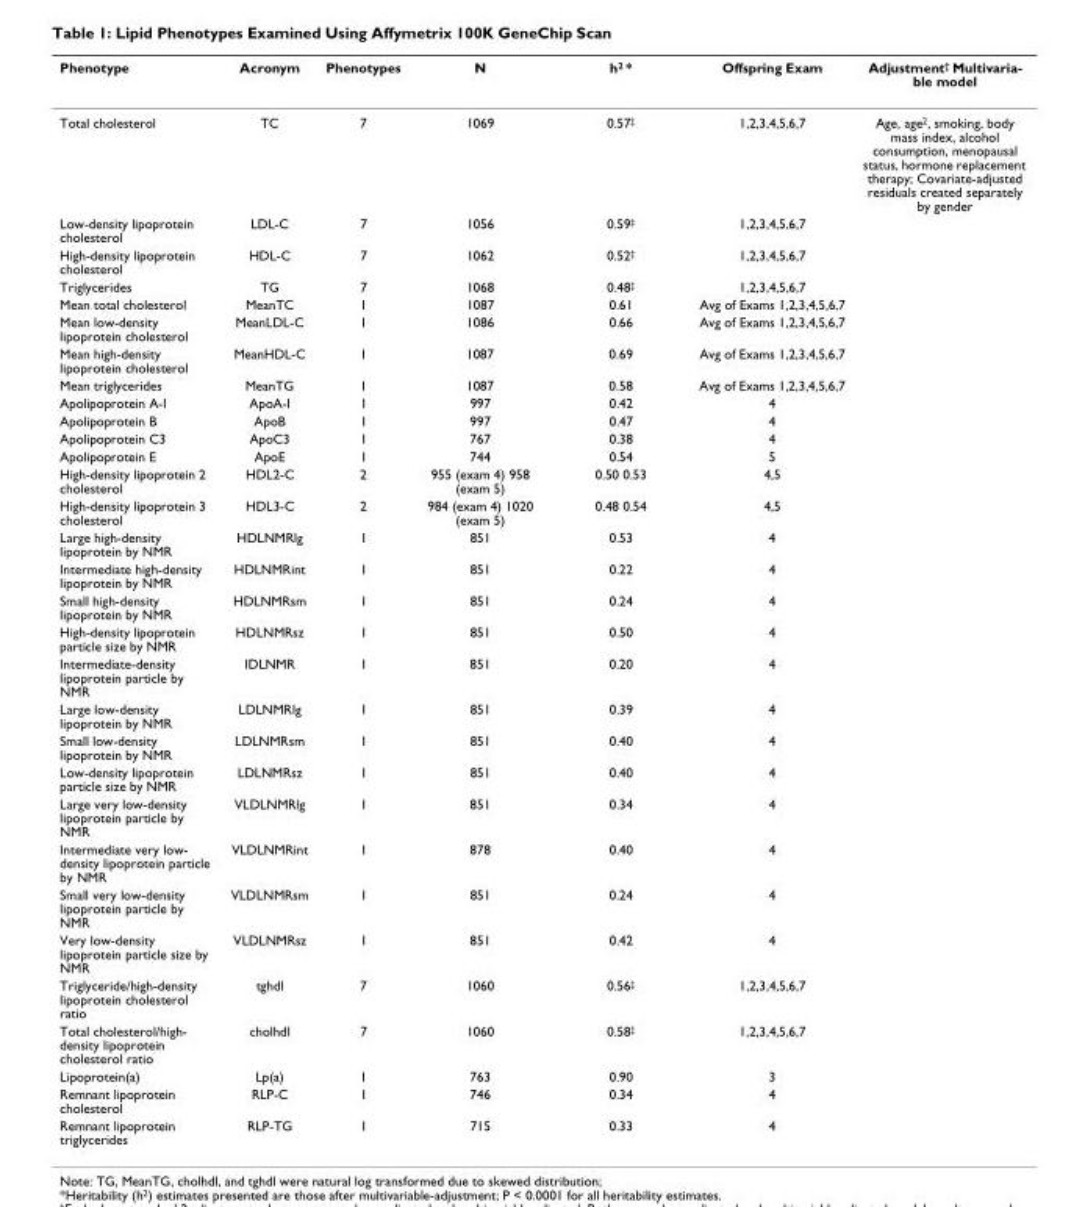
<table><thead><tr><td>Phenotype</td><td>Acronym</td><td>Phenotypes</td><td>N</td><td>h<sup>2</sup> *</td><td>Offspring Exam</td><td>Adjustment† Multivaria- ble model</td></tr></thead><tbody><tr><td>Total cholesterol</td><td>TC</td><td>7</td><td>1069</td><td>0.57<sup>‡</sup></td><td>1,2,3,4,5,6,7</td><td>Age, age<sup>2</sup>, smoking, body mass index, alcohol consumption, menopausal status, hormone replacement therapy; Covariate-adjusted residuals created separately by gender</td></tr><tr><td>Low-density lipoprotein cholesterol</td><td>LDL-C</td><td>7</td><td>1056</td><td>0.59<sup>‡</sup></td><td>1,2,3,4,5,6,7</td><td></td></tr><tr><td>High-density lipoprotein cholesterol</td><td>HDL-C</td><td>7</td><td>1062</td><td>0.52<sup>‡</sup></td><td>1,2,3,4,5,6,7</td><td></td></tr><tr><td>Triglycerides</td><td>TG</td><td>7</td><td>1068</td><td>0.48<sup>‡</sup></td><td>1,2,3,4,5,6,7</td><td></td></tr><tr><td>Mean total cholesterol</td><td>MeanTC</td><td>1</td><td>1087</td><td>0.61</td><td>Avg of Exams 1,2,3,4,5,6,7</td><td></td></tr><tr><td>Mean low-density lipoprotein cholesterol</td><td>MeanLDL-C</td><td>1</td><td>1086</td><td>0.66</td><td>Avg of Exams 1,2,3,4,5,6,7</td><td></td></tr><tr><td>Mean high-density lipoprotein cholesterol</td><td>MeanHDL-C</td><td>1</td><td>1087</td><td>0.69</td><td>Avg of Exams 1,2,3,4,5,6,7</td><td></td></tr><tr><td>Mean triglycerides</td><td>MeanTG</td><td>1</td><td>1087</td><td>0.58</td><td>Avg of Exams 1,2,3,4,5,6,7</td><td></td></tr><tr><td>Apolipoprotein A-I</td><td>ApoA-I</td><td>1</td><td>997</td><td>0.42</td><td>4</td><td></td></tr><tr><td>Apolipoprotein B</td><td>ApoB</td><td>1</td><td>997</td><td>0.47</td><td>4</td><td></td></tr><tr><td>Apolipoprotein C3</td><td>ApoC3</td><td>1</td><td>767</td><td>0.38</td><td>4</td><td></td></tr><tr><td>Apolipoprotein E</td><td>ApoE</td><td>1</td><td>744</td><td>0.54</td><td>5</td><td></td></tr><tr><td>High-density lipoprotein 2 cholesterol</td><td>HDL2-C</td><td>2</td><td>955 (exam 4) 958 (exam 5)</td><td>0.50 0.53</td><td>4,5</td><td></td></tr><tr><td>High-density lipoprotein 3 cholesterol</td><td>HDL3-C</td><td>2</td><td>984 (exam 4) 1020 (exam 5)</td><td>0.48 0.54</td><td>4,5</td><td></td></tr><tr><td>Large high-density lipoprotein by NMR</td><td>HDLNMRlg</td><td>1</td><td>851</td><td>0.53</td><td>4</td><td></td></tr><tr><td>Intermediate high-density lipoprotein by NMR</td><td>HDLNMRint</td><td>1</td><td>851</td><td>0.22</td><td>4</td><td></td></tr><tr><td>Small high-density lipoprotein by NMR</td><td>HDLNMRsm</td><td>1</td><td>851</td><td>0.24</td><td>4</td><td></td></tr><tr><td>High-density lipoprotein particle size by NMR</td><td>HDLNMRsz</td><td>1</td><td>851</td><td>0.50</td><td>4</td><td></td></tr><tr><td>Intermediate-density lipoprotein particle by NMR</td><td>IDLNMR</td><td>1</td><td>851</td><td>0.20</td><td>4</td><td></td></tr><tr><td>Large low-density lipoprotein by NMR</td><td>LDLNMRlg</td><td>1</td><td>851</td><td>0.39</td><td>4</td><td></td></tr><tr><td>Small low-density lipoprotein by NMR</td><td>LDLNMRsm</td><td>1</td><td>851</td><td>0.40</td><td>4</td><td></td></tr><tr><td>Low-density lipoprotein particle size by NMR</td><td>LDLNMRsz</td><td>1</td><td>851</td><td>0.40</td><td>4</td><td></td></tr><tr><td>Large very low-density lipoprotein particle by NMR</td><td>VLDLNMRlg</td><td>1</td><td>851</td><td>0.34</td><td>4</td><td></td></tr><tr><td>Intermediate very low- density lipoprotein particle by NMR</td><td>VLDLNMRint</td><td>1</td><td>878</td><td>0.40</td><td>4</td><td></td></tr><tr><td>Small very low-density lipoprotein particle by NMR</td><td>VLDLNMRsm</td><td>1</td><td>851</td><td>0.24</td><td>4</td><td></td></tr><tr><td>Very low-density lipoprotein particle size by NMR</td><td>VLDLNMRsz</td><td>1</td><td>851</td><td>0.42</td><td>4</td><td></td></tr><tr><td>Triglyceride/high-density lipoprotein cholesterol ratio</td><td>tghdl</td><td>7</td><td>1060</td><td>0.56<sup>‡</sup></td><td>1,2,3,4,5,6,7</td><td></td></tr><tr><td>Total cholesterol/high- density lipoprotein cholesterol ratio</td><td>cholhdl</td><td>7</td><td>1060</td><td>0.58<sup>‡</sup></td><td>1,2,3,4,5,6,7</td><td></td></tr><tr><td>Lipoprotein(a)</td><td>Lp(a)</td><td>1</td><td>763</td><td>0.90</td><td>3</td><td></td></tr><tr><td>Remnant lipoprotein cholesterol</td><td>RLP-C</td><td>1</td><td>746</td><td>0.34</td><td>4</td><td></td></tr><tr><td>Remnant lipoprotein triglycerides</td><td>RLP-TG</td><td>1</td><td>715</td><td>0.33</td><td>4</td><td></td></tr></tbody></table>